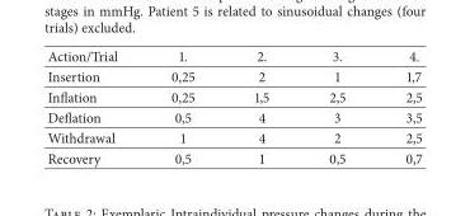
<table><thead><tr><td>Action/Trial</td><td>1.</td><td>2.</td><td>3.</td><td>4.</td></tr></thead><tbody><tr><td>Insertion</td><td>0,25</td><td>2</td><td>1</td><td>1,7</td></tr><tr><td>Inflation</td><td>0,25</td><td>1,5</td><td>2,5</td><td>2,5</td></tr><tr><td>Deflation</td><td>0,5</td><td>4</td><td>3</td><td>3,5</td></tr><tr><td>Withdrawal</td><td>1</td><td>4</td><td>2</td><td>2,5</td></tr><tr><td>Recovery</td><td>0,5</td><td>1</td><td>0,5</td><td>0,7</td></tr></tbody></table>